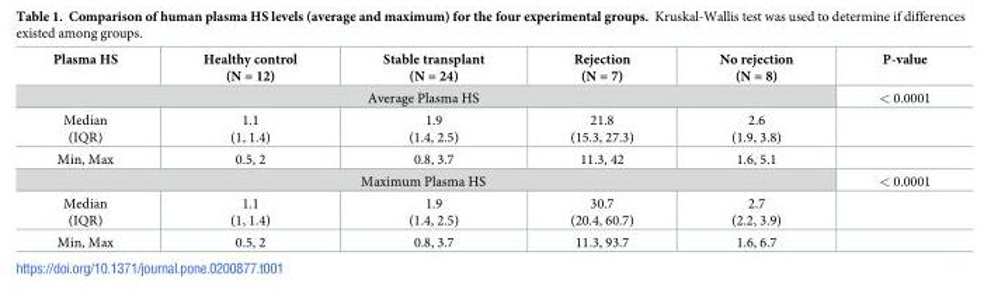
<table><thead><tr><td>Plasma HS</td><td>Healthy control (N = 12)</td><td>Stable transplant (N = 24)</td><td>Rejection (N = 7)</td><td>No rejection (N = 8)</td><td>P-value</td></tr></thead><tbody><tr><td colspan="5">Average Plasma HS</td><td>&lt; 0.0001</td></tr><tr><td>Median (IQR)</td><td>1.1 (1, 1.4)</td><td>1.9 (1.4, 2.5)</td><td>21.8 (15.3, 27.3)</td><td>2.6 (1.9, 3.8)</td><td></td></tr><tr><td>Min, Max</td><td>0.5, 2</td><td>0.8, 3.7</td><td>11.3, 42</td><td>1.6, 5.1</td><td></td></tr><tr><td colspan="5">Maximum Plasma HS</td><td>&lt; 0.0001</td></tr><tr><td>Median (IQR)</td><td>1.1 (1, 1.4)</td><td>1.9 (1.4, 2.5)</td><td>30.7 (20.4, 60.7)</td><td>2.7 (2.2, 3.9)</td><td></td></tr><tr><td>Min, Max</td><td>0.5, 2</td><td>0.8, 3.7</td><td>11.3, 93.7</td><td>1.6, 6.7</td><td></td></tr></tbody></table>